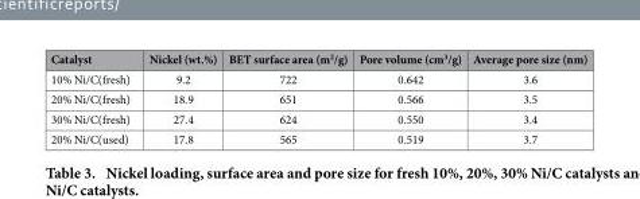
<table><thead><tr><td>Catalyst</td><td>Nickel (wt.%)</td><td>BET surface area (m<sup>2</sup>/g)</td><td>Pore volume (cm<sup>3</sup>/g)</td><td>Average pore size (nm)</td></tr></thead><tbody><tr><td>10% Ni/C(fresh)</td><td>9.2</td><td>722</td><td>0.642</td><td>3.6</td></tr><tr><td>20% Ni/C(fresh)</td><td>18.9</td><td>651</td><td>0.566</td><td>3.5</td></tr><tr><td>30% Ni/C(fresh)</td><td>27.4</td><td>624</td><td>0.550</td><td>3.4</td></tr><tr><td>20% Ni/C(used)</td><td>17.8</td><td>565</td><td>0.519</td><td>3.7</td></tr></tbody></table>